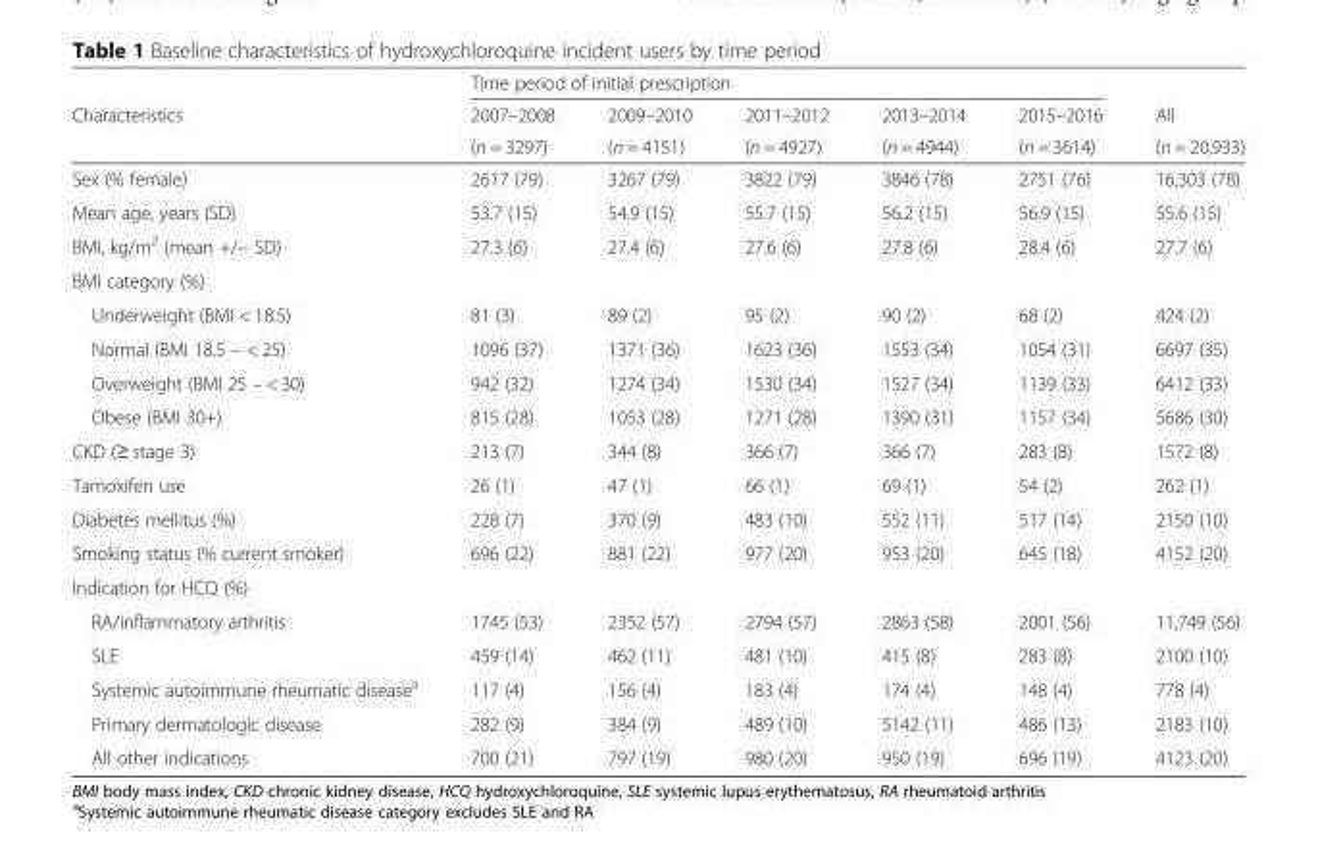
<table><thead><tr><td rowspan="3">Characteristics</td><td colspan="5">Time period of initial prescription</td><td rowspan="3">All (n = 20,933)</td></tr><tr><td rowspan="2">2007–2008 (n = 3297)</td><td rowspan="2">2009–2010 (n = 4151)</td><td rowspan="2">2011–2012 (n = 4927)</td><td rowspan="2">2013–2014 (n = 4944)</td><td rowspan="2">2015–2016 (n = 3614)</td></tr><tr></tr></thead><tbody><tr><td>Sex (% female)</td><td>2617 (79)</td><td>3267 (79)</td><td>3822 (79)</td><td>3846 (78)</td><td>2751 (76)</td><td>16,303 (78)</td></tr><tr><td>Mean age, years (SD)</td><td>53.7 (15)</td><td>54.9 (15)</td><td>55.7 (15)</td><td>56.2 (15)</td><td>56.9 (15)</td><td>55.6 (15)</td></tr><tr><td>BMI, kg/m<sup>2</sup> (mean +/− SD)</td><td>27.3 (6)</td><td>27.4 (6)</td><td>27.6 (6)</td><td>27.8 (6)</td><td>28.4 (6)</td><td>27.7 (6)</td></tr><tr><td colspan="7">BMI category (%)</td></tr><tr><td>Underweight (BMI &lt; 18.5)</td><td>81 (3)</td><td>89 (2)</td><td>95 (2)</td><td>90 (2)</td><td>68 (2)</td><td>424 (2)</td></tr><tr><td>Normal (BMI 18.5 – &lt; 25)</td><td>1096 (37)</td><td>1371 (36)</td><td>1623 (36)</td><td>1553 (34)</td><td>1054 (31)</td><td>6697 (35)</td></tr><tr><td>Overweight (BMI 25 – &lt; 30)</td><td>942 (32)</td><td>1274 (34)</td><td>1530 (34)</td><td>1527 (34)</td><td>1139 (33)</td><td>6412 (33)</td></tr><tr><td>Obese (BMI 30+)</td><td>815 (28)</td><td>1053 (28)</td><td>1271 (28)</td><td>1390 (31)</td><td>1157 (34)</td><td>5686 (30)</td></tr><tr><td>CKD (≥ stage 3)</td><td>213 (7)</td><td>344 (8)</td><td>366 (7)</td><td>366 (7)</td><td>283 (8)</td><td>1572 (8)</td></tr><tr><td>Tamoxifen use</td><td>26 (1)</td><td>47 (1)</td><td>66 (1)</td><td>69 (1)</td><td>54 (2)</td><td>262 (1)</td></tr><tr><td>Diabetes mellitus (%)</td><td>228 (7)</td><td>370 (9)</td><td>483 (10)</td><td>552 (11)</td><td>517 (14)</td><td>2150 (10)</td></tr><tr><td>Smoking status (% current smoker)</td><td>696 (22)</td><td>881 (22)</td><td>977 (20)</td><td>953 (20)</td><td>645 (18)</td><td>4152 (20)</td></tr><tr><td colspan="7">Indication for HCQ (%)</td></tr><tr><td>RA/inflammatory arthritis</td><td>1745 (53)</td><td>2352 (57)</td><td>2794 (57)</td><td>2863 (58)</td><td>2001 (56)</td><td>11,749 (56)</td></tr><tr><td>SLE</td><td>459 (14)</td><td>462 (11)</td><td>481 (10)</td><td>415 (8)</td><td>283 (8)</td><td>2100 (10)</td></tr><tr><td>Systemic autoimmune rheumatic disease<sup>a</sup></td><td>117 (4)</td><td>156 (4)</td><td>183 (4)</td><td>174 (4)</td><td>148 (4)</td><td>778 (4)</td></tr><tr><td>Primary dermatologic disease</td><td>282 (9)</td><td>384 (9)</td><td>489 (10)</td><td>5142 (11)</td><td>486 (13)</td><td>2183 (10)</td></tr><tr><td>All other indications</td><td>700 (21)</td><td>797 (19)</td><td>980 (20)</td><td>950 (19)</td><td>696 (19)</td><td>4123 (20)</td></tr></tbody></table>